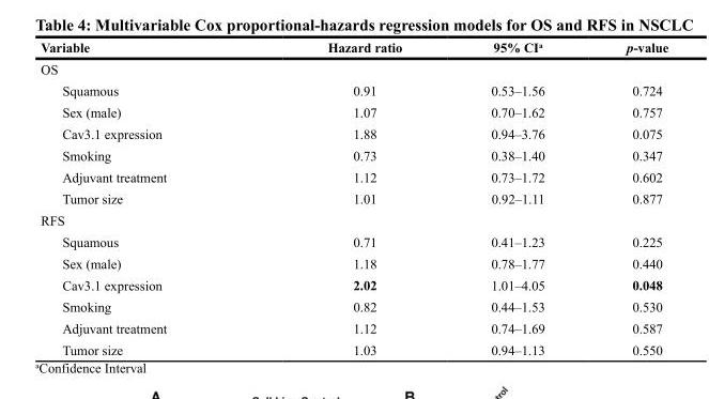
<table><thead><tr><td>Variable</td><td>Hazard ratio</td><td>95% CI<sup>a</sup></td><td>p-value</td></tr></thead><tbody><tr><td colspan="4">OS</td></tr><tr><td>Squamous</td><td>0.91</td><td>0.53–1.56</td><td>0.724</td></tr><tr><td>Sex (male)</td><td>1.07</td><td>0.70–1.62</td><td>0.757</td></tr><tr><td>Cav3.1 expression</td><td>1.88</td><td>0.94–3.76</td><td>0.075</td></tr><tr><td>Smoking</td><td>0.73</td><td>0.38–1.40</td><td>0.347</td></tr><tr><td>Adjuvant treatment</td><td>1.12</td><td>0.73–1.72</td><td>0.602</td></tr><tr><td>Tumor size</td><td>1.01</td><td>0.92–1.11</td><td>0.877</td></tr><tr><td colspan="4">RFS</td></tr><tr><td>Squamous</td><td>0.71</td><td>0.41–1.23</td><td>0.225</td></tr><tr><td>Sex (male)</td><td>1.18</td><td>0.78–1.77</td><td>0.440</td></tr><tr><td>Cav3.1 expression</td><td>2.02</td><td>1.01–4.05</td><td>0.048</td></tr><tr><td>Smoking</td><td>0.82</td><td>0.44–1.53</td><td>0.530</td></tr><tr><td>Adjuvant treatment</td><td>1.12</td><td>0.74–1.69</td><td>0.587</td></tr><tr><td>Tumor size</td><td>1.03</td><td>0.94–1.13</td><td>0.550</td></tr></tbody></table>